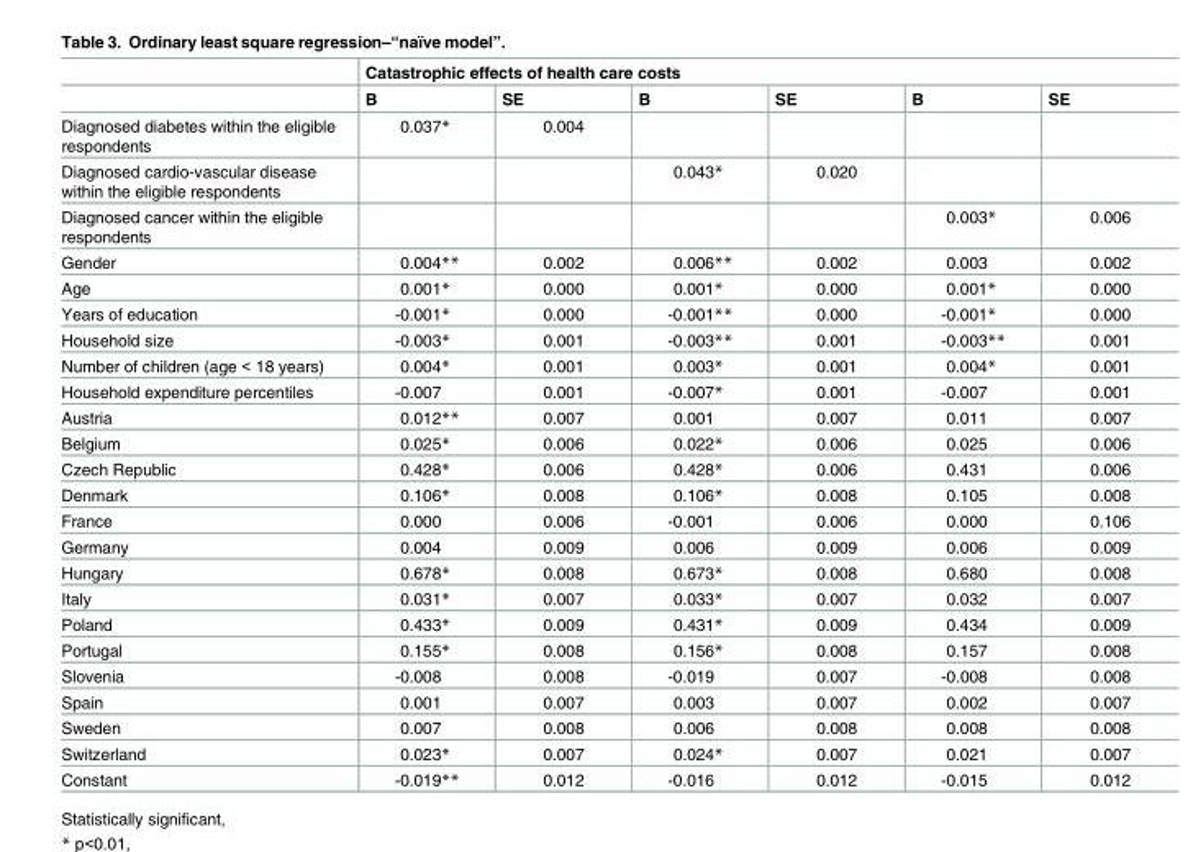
<table><thead><tr><td rowspan="2"></td><td colspan="6">Catastrophic effects of health care costs</td></tr><tr><td>B</td><td>SE</td><td>B</td><td>SE</td><td>B</td><td>SE</td></tr></thead><tbody><tr><td>Diagnosed diabetes within the eligible respondents</td><td>0.037*</td><td>0.004</td><td></td><td></td><td></td><td></td></tr><tr><td>Diagnosed cardio-vascular disease within the eligible respondents</td><td></td><td></td><td>0.043*</td><td>0.020</td><td></td><td></td></tr><tr><td>Diagnosed cancer within the eligible respondents</td><td></td><td></td><td></td><td></td><td>0.003*</td><td>0.006</td></tr><tr><td>Gender</td><td>0.004**</td><td>0.002</td><td>0.006**</td><td>0.002</td><td>0.003</td><td>0.002</td></tr><tr><td>Age</td><td>0.001*</td><td>0.000</td><td>0.001*</td><td>0.000</td><td>0.001*</td><td>0.000</td></tr><tr><td>Years of education</td><td>-0.001*</td><td>0.000</td><td>-0.001**</td><td>0.000</td><td>-0.001*</td><td>0.000</td></tr><tr><td>Household size</td><td>-0.003*</td><td>0.001</td><td>-0.003**</td><td>0.001</td><td>-0.003**</td><td>0.001</td></tr><tr><td>Number of children (age &lt; 18 years)</td><td>0.004*</td><td>0.001</td><td>0.003*</td><td>0.001</td><td>0.004*</td><td>0.001</td></tr><tr><td>Household expenditure percentiles</td><td>-0.007</td><td>0.001</td><td>-0.007*</td><td>0.001</td><td>-0.007</td><td>0.001</td></tr><tr><td>Austria</td><td>0.012**</td><td>0.007</td><td>0.001</td><td>0.007</td><td>0.011</td><td>0.007</td></tr><tr><td>Belgium</td><td>0.025*</td><td>0.006</td><td>0.022*</td><td>0.006</td><td>0.025</td><td>0.006</td></tr><tr><td>Czech Republic</td><td>0.428*</td><td>0.006</td><td>0.428*</td><td>0.006</td><td>0.431</td><td>0.006</td></tr><tr><td>Denmark</td><td>0.106*</td><td>0.008</td><td>0.106*</td><td>0.008</td><td>0.105</td><td>0.008</td></tr><tr><td>France</td><td>0.000</td><td>0.006</td><td>-0.001</td><td>0.006</td><td>0.000</td><td>0.106</td></tr><tr><td>Germany</td><td>0.004</td><td>0.009</td><td>0.006</td><td>0.009</td><td>0.006</td><td>0.009</td></tr><tr><td>Hungary</td><td>0.678*</td><td>0.008</td><td>0.673*</td><td>0.008</td><td>0.680</td><td>0.008</td></tr><tr><td>Italy</td><td>0.031*</td><td>0.007</td><td>0.033*</td><td>0.007</td><td>0.032</td><td>0.007</td></tr><tr><td>Poland</td><td>0.433*</td><td>0.009</td><td>0.431*</td><td>0.009</td><td>0.434</td><td>0.009</td></tr><tr><td>Portugal</td><td>0.155*</td><td>0.008</td><td>0.156*</td><td>0.008</td><td>0.157</td><td>0.008</td></tr><tr><td>Slovenia</td><td>-0.008</td><td>0.008</td><td>-0.019</td><td>0.007</td><td>-0.008</td><td>0.008</td></tr><tr><td>Spain</td><td>0.001</td><td>0.007</td><td>0.003</td><td>0.007</td><td>0.002</td><td>0.007</td></tr><tr><td>Sweden</td><td>0.007</td><td>0.008</td><td>0.006</td><td>0.008</td><td>0.008</td><td>0.008</td></tr><tr><td>Switzerland</td><td>0.023*</td><td>0.007</td><td>0.024*</td><td>0.007</td><td>0.021</td><td>0.007</td></tr><tr><td>Constant</td><td>-0.019**</td><td>0.012</td><td>-0.016</td><td>0.012</td><td>-0.015</td><td>0.012</td></tr></tbody></table>